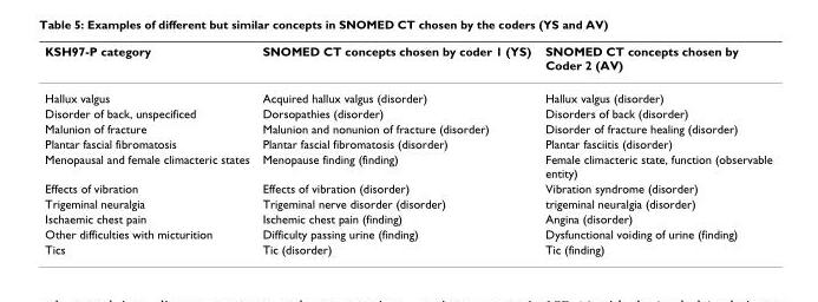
<table><thead><tr><td>KSH97-P category</td><td>SNOMED CT concepts chosen by coder 1 (YS)</td><td>SNOMED CT concepts chosen by Coder 2 (AV)</td></tr></thead><tbody><tr><td>Hallux valgus</td><td>Acquired hallux valgus (disorder)</td><td>Hallux valgus (disorder)</td></tr><tr><td>Disorder of back, unspecificed</td><td>Dorsopathies (disorder)</td><td>Disorders of back (disorder)</td></tr><tr><td>Malunion of fracture</td><td>Malunion and nonunion of fracture (disorder)</td><td>Disorder of fracture healing (disorder)</td></tr><tr><td>Plantar fascial fibromatosis</td><td>Plantar fascial fibromatosis (disorder)</td><td>Plantar fasciitis (disorder)</td></tr><tr><td>Menopausal and female climacteric states</td><td>Menopause finding (finding)</td><td>Female climacteric state, function (observable entity)</td></tr><tr><td>Effects of vibration</td><td>Effects of vibration (disorder)</td><td>Vibration syndrome (disorder)</td></tr><tr><td>Trigeminal neuralgia</td><td>Trigeminal nerve disorder (disorder)</td><td>trigeminal neuralgia (disorder)</td></tr><tr><td>Ischaemic chest pain</td><td>Ischemic chest pain (finding)</td><td>Angina (disorder)</td></tr><tr><td>Other difficulties with micturition</td><td>Difficulty passing urine (finding)</td><td>Dysfunctional voiding of urine (finding)</td></tr><tr><td>Tics</td><td>Tic (disorder)</td><td>Tic (finding)</td></tr></tbody></table>